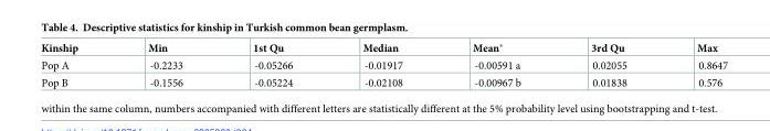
<table><thead><tr><td>Kinship</td><td>Min</td><td>1st Qu</td><td>Median</td><td>Mean*</td><td>3rd Qu</td><td>Max</td></tr></thead><tbody><tr><td>Pop A</td><td>-0.2233</td><td>-0.05266</td><td>-0.01917</td><td>-0.00591 a</td><td>0.02055</td><td>0.8647</td></tr><tr><td>Pop B</td><td>-0.1556</td><td>-0.05224</td><td>-0.02108</td><td>-0.00967 b</td><td>0.01838</td><td>0.576</td></tr></tbody></table>